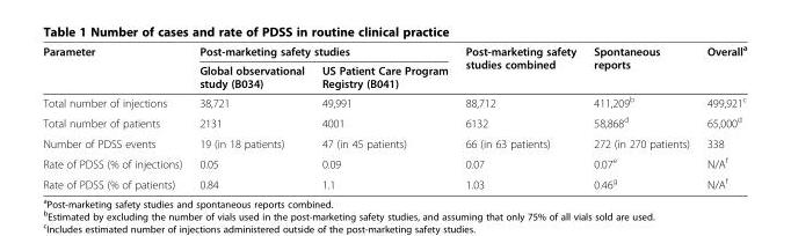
<table><thead><tr><td rowspan="2">Parameter</td><td colspan="2">Post-marketing safety studies</td><td rowspan="2">Post-marketing safety studies combined</td><td rowspan="2">Spontaneous reports</td><td rowspan="2">Overall<sup>a</sup></td></tr><tr><td>Global observational study (B034)</td><td>US Patient Care Program Registry (B041)</td></tr></thead><tbody><tr><td>Total number of injections</td><td>38,721</td><td>49,991</td><td>88,712</td><td>411,209<sup>b</sup></td><td>499,921<sup>c</sup></td></tr><tr><td>Total number of patients</td><td>2131</td><td>4001</td><td>6132</td><td>58,868<sup>d</sup></td><td>65,000<sup>d</sup></td></tr><tr><td>Number of PDSS events</td><td>19 (in 18 patients)</td><td>47 (in 45 patients)</td><td>66 (in 63 patients)</td><td>272 (in 270 patients)</td><td>338</td></tr><tr><td>Rate of PDSS (% of injections)</td><td>0.05</td><td>0.09</td><td>0.07</td><td>0.07<sup>e</sup></td><td>N/A<sup>f</sup></td></tr><tr><td>Rate of PDSS (% of patients)</td><td>0.84</td><td>1.1</td><td>1.03</td><td>0.46<sup>g</sup></td><td>N/A<sup>f</sup></td></tr></tbody></table>